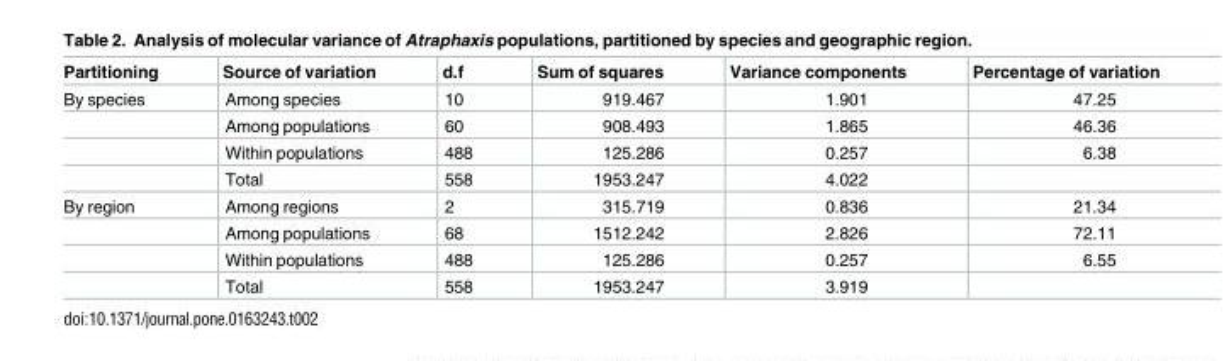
<table><thead><tr><td>Partitioning</td><td>Source of variation</td><td>d.f</td><td>Sum of squares</td><td>Variance components</td><td>Percentage of variation</td></tr></thead><tbody><tr><td rowspan="4">By species</td><td>Among species</td><td>10</td><td>919.467</td><td>1.901</td><td>47.25</td></tr><tr><td>Among populations</td><td>60</td><td>908.493</td><td>1.865</td><td>46.36</td></tr><tr><td>Within populations</td><td>488</td><td>125.286</td><td>0.257</td><td>6.38</td></tr><tr><td>Total</td><td>558</td><td>1953.247</td><td>4.022</td><td></td></tr><tr><td rowspan="4">By region</td><td>Among regions</td><td>2</td><td>315.719</td><td>0.836</td><td>21.34</td></tr><tr><td>Among populations</td><td>68</td><td>1512.242</td><td>2.826</td><td>72.11</td></tr><tr><td>Within populations</td><td>488</td><td>125.286</td><td>0.257</td><td>6.55</td></tr><tr><td>Total</td><td>558</td><td>1953.247</td><td>3.919</td><td></td></tr></tbody></table>